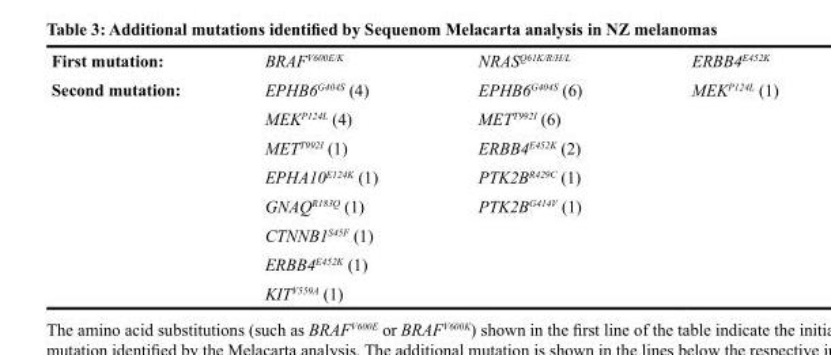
<table><tbody><tr><td>First mutation:</td><td>BRAF<sup>V600E/K</sup></td><td>NRAS<sup>Q61K/R/H/L</sup></td><td>ERBB4<sup>E452K</sup></td></tr><tr><td rowspan="8">Second mutation:</td><td>EPHB6<sup>G404S</sup> (4)</td><td>EPHB6<sup>G404S</sup> (6)</td><td>MEK<sup>P124L</sup> (1)</td></tr><tr><td>MEK<sup>P124L</sup> (4)</td><td>MET<sup>T992I</sup> (6)</td><td></td></tr><tr><td>MET<sup>T992I</sup> (1)</td><td>ERBB4<sup>E452K</sup> (2)</td><td></td></tr><tr><td>EPHA10<sup>E124K</sup> (1)</td><td>PTK2B<sup>R429C</sup> (1)</td><td></td></tr><tr><td>GNAQ<sup>R183Q</sup> (1)</td><td>PTK2B<sup>G414V</sup> (1)</td><td></td></tr><tr><td>CTNNB1<sup>S45F</sup> (1)</td><td></td><td></td></tr><tr><td>ERBB4<sup>E452K</sup> (1)</td><td></td><td></td></tr><tr><td>KIT<sup>V559A</sup> (1)</td><td></td><td></td></tr></tbody></table>